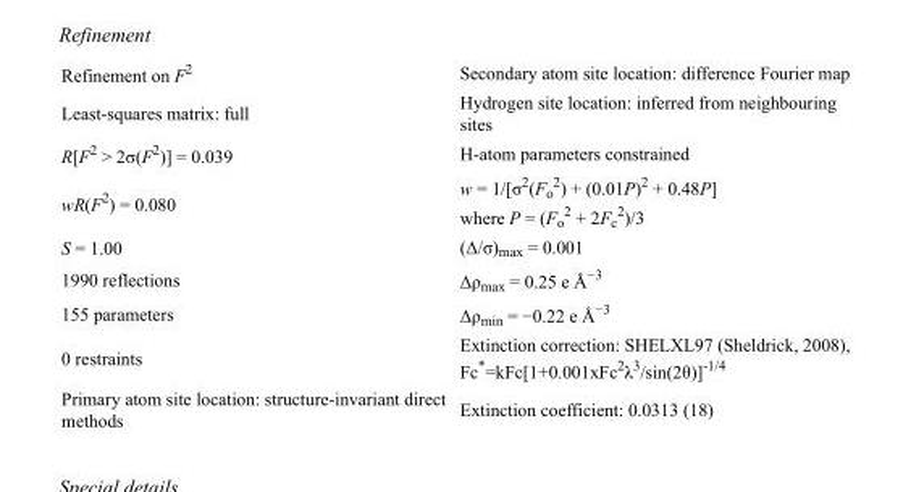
<table><tbody><tr><td>Refinement on F<sup>2</sup></td><td>Secondary atom site location: difference Fourier map</td></tr><tr><td>Least-squares matrix: full</td><td>Hydrogen site location: inferred from neighbouring sites</td></tr><tr><td>R[F<sup>2</sup> &gt; 2σ(F<sup>2</sup>)] = 0.039</td><td>H-atom parameters constrained</td></tr><tr><td>wR(F<sup>2</sup>) = 0.080</td><td>w = 1/[σ<sup>2</sup>(F<sub>o</sub> <sup>2</sup>) + (0.01P)<sup>2</sup> + 0.48P] where P = (F<sub>o</sub> <sup>2</sup> + 2F<sub>c</sub> <sup>2</sup>)/3</td></tr><tr><td>S = 1.00</td><td>(Δ/σ)<sub>max</sub> = 0.001</td></tr><tr><td>1990 reflections</td><td>Δρ<sub>max</sub> = 0.25 e Å<sup>−3</sup></td></tr><tr><td>155 parameters</td><td>Δρ<sub>min</sub> = −0.22 e Å<sup>−3</sup></td></tr><tr><td>0 restraints</td><td>Extinction correction: SHELXL97 (Sheldrick, 2008), Fc*=kFc[1+0.001xFc<sup>2</sup>λ<sup>3</sup>/sin(2θ)]<sup>-1/4</sup></td></tr><tr><td>Primary atom site location: structure-invariant direct methods</td><td>Extinction coefficient: 0.0313 (18)</td></tr></tbody></table>